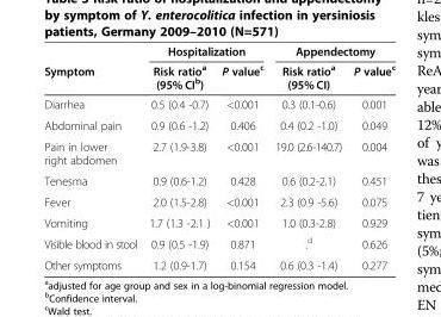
<table><thead><tr><td rowspan="2">Symptom</td><td colspan="2">Hospitalization</td><td colspan="2">Appendectomy</td></tr><tr><td>Risk ratio<sup>a</sup> (95% CI<sup>b</sup>)</td><td>P value<sup>c</sup></td><td>Risk ratio<sup>a</sup> (95% CI)</td><td>P value<sup>c</sup></td></tr></thead><tbody><tr><td>Diarrhea</td><td>0.5 (0.4 -0.7)</td><td>&lt;0.001</td><td>0.3 (0.1-0.6)</td><td>0.001</td></tr><tr><td>Abdominal pain</td><td>0.9 (0.6 -1.2)</td><td>0.406</td><td>0.4 (0.2 -1.0)</td><td>0.049</td></tr><tr><td>Pain in lower right abdomen</td><td>2.7 (1.9-3.8)</td><td>&lt;0.001</td><td>19.0 (2.6-140.7)</td><td>0.004</td></tr><tr><td>Tenesma</td><td>0.9 (0.6-1.2)</td><td>0.428</td><td>0.6 (0.2-2.1)</td><td>0.451</td></tr><tr><td>Fever</td><td>2.0 (1.5-2.8)</td><td>&lt;0.001</td><td>2.3 (0.9 -5.6)</td><td>0.075</td></tr><tr><td>Vomiting</td><td>1.7 (1.3 -2.1 )</td><td>&lt;0.001</td><td>1.0 (0.3-2.8)</td><td>0.929</td></tr><tr><td>Visible blood in stool</td><td>0.9 (0.5 -1.9)</td><td>0.871</td><td>.<sup>d</sup></td><td>0.626</td></tr><tr><td>Other symptoms</td><td>1.2 (0.9-1.7)</td><td>0.154</td><td>0.6 (0.3 -1.4)</td><td>0.277</td></tr></tbody></table>